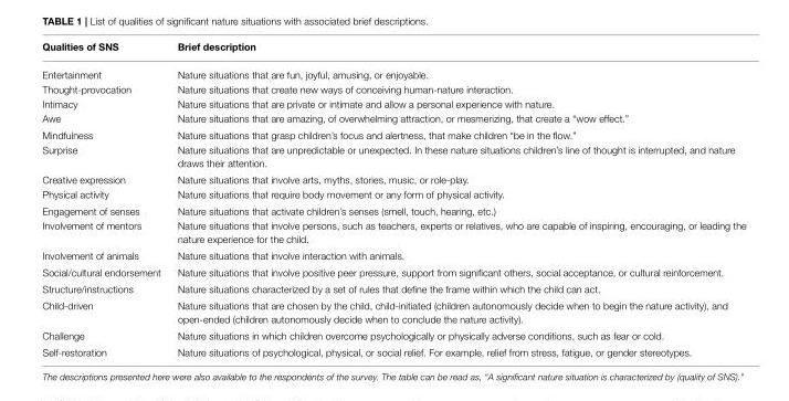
<table><thead><tr><td>Qualities of SNS</td><td>Brief description</td></tr></thead><tbody><tr><td>Entertainment</td><td>Nature situations that are fun, joyful, amusing, or enjoyable.</td></tr><tr><td>Thought-provocation</td><td>Nature situations that create new ways of conceiving human-nature interaction.</td></tr><tr><td>Intimacy</td><td>Nature situations that are private or intimate and allow a personal experience with nature.</td></tr><tr><td>Awe</td><td>Nature situations that are amazing, of overwhelming attraction, or mesmerizing, that create a “wow effect.”</td></tr><tr><td>Mindfulness</td><td>Nature situations that grasp children’s focus and alertness, that make children “be in the flow.”</td></tr><tr><td>Surprise</td><td>Nature situations that are unpredictable or unexpected. In these nature situations children’s line of thought is interrupted, and nature draws their attention.</td></tr><tr><td>Creative expression</td><td>Nature situations that involve arts, myths, stories, music, or role-play.</td></tr><tr><td>Physical activity</td><td>Nature situations that require body movement or any form of physical activity.</td></tr><tr><td>Engagement of senses</td><td>Nature situations that activate children’s senses (smell, touch, hearing, etc.)</td></tr><tr><td>Involvement of mentors</td><td>Nature situations that involve persons, such as teachers, experts or relatives, who are capable of inspiring, encouraging, or leading the nature experience for the child.</td></tr><tr><td>Involvement of animals</td><td>Nature situations that involve interaction with animals.</td></tr><tr><td>Social/cultural endorsement</td><td>Nature situations that involve positive peer pressure, support from significant others, social acceptance, or cultural reinforcement.</td></tr><tr><td>Structure/instructions</td><td>Nature situations characterized by a set of rules that define the frame within which the child can act.</td></tr><tr><td>Child-driven</td><td>Nature situations that are chosen by the child, child-initiated (children autonomously decide when to begin the nature activity), and open-ended (children autonomously decide when to conclude the nature activity).</td></tr><tr><td>Challenge</td><td>Nature situations in which children overcome psychologically or physically adverse conditions, such as fear or cold.</td></tr><tr><td>Self-restoration</td><td>Nature situations of psychological, physical, or social relief. For example, relief from stress, fatigue, or gender stereotypes.</td></tr></tbody></table>